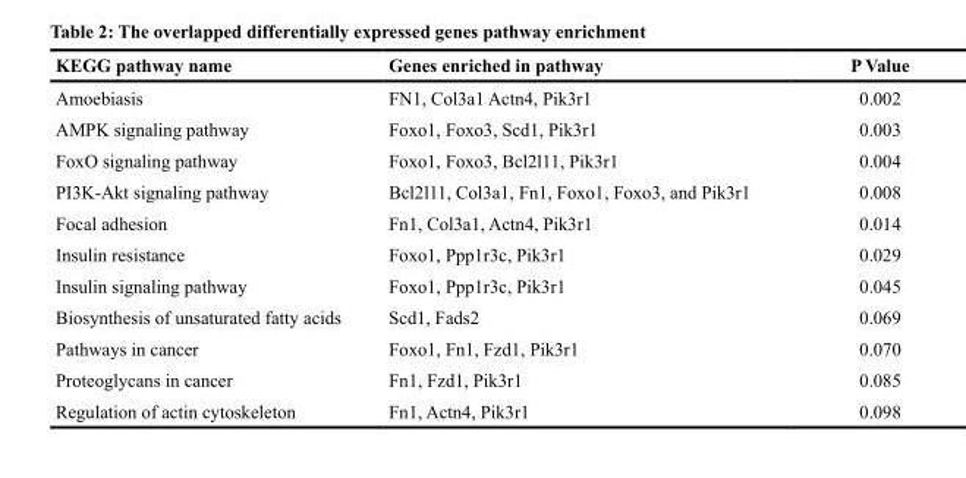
<table><thead><tr><td>KEGG pathway name</td><td>Genes enriched in pathway</td><td>P Value</td></tr></thead><tbody><tr><td>Amoebiasis</td><td>FN1, Col3a1 Actn4, Pik3r1</td><td>0.002</td></tr><tr><td>AMPK signaling pathway</td><td>Foxo1, Foxo3, Scd1, Pik3r1</td><td>0.003</td></tr><tr><td>FoxO signaling pathway</td><td>Foxo1, Foxo3, Bcl2l11, Pik3r1</td><td>0.004</td></tr><tr><td>PI3K-Akt signaling pathway</td><td>Bcl2l11, Col3a1, Fn1, Foxo1, Foxo3, and Pik3r1</td><td>0.008</td></tr><tr><td>Focal adhesion</td><td>Fn1, Col3a1, Actn4, Pik3r1</td><td>0.014</td></tr><tr><td>Insulin resistance</td><td>Foxo1, Ppp1r3c, Pik3r1</td><td>0.029</td></tr><tr><td>Insulin signaling pathway</td><td>Foxo1, Ppp1r3c, Pik3r1</td><td>0.045</td></tr><tr><td>Biosynthesis of unsaturated fatty acids</td><td>Scd1, Fads2</td><td>0.069</td></tr><tr><td>Pathways in cancer</td><td>Foxo1, Fn1, Fzd1, Pik3r1</td><td>0.070</td></tr><tr><td>Proteoglycans in cancer</td><td>Fn1, Fzd1, Pik3r1</td><td>0.085</td></tr><tr><td>Regulation of actin cytoskeleton</td><td>Fn1, Actn4, Pik3r1</td><td>0.098</td></tr></tbody></table>